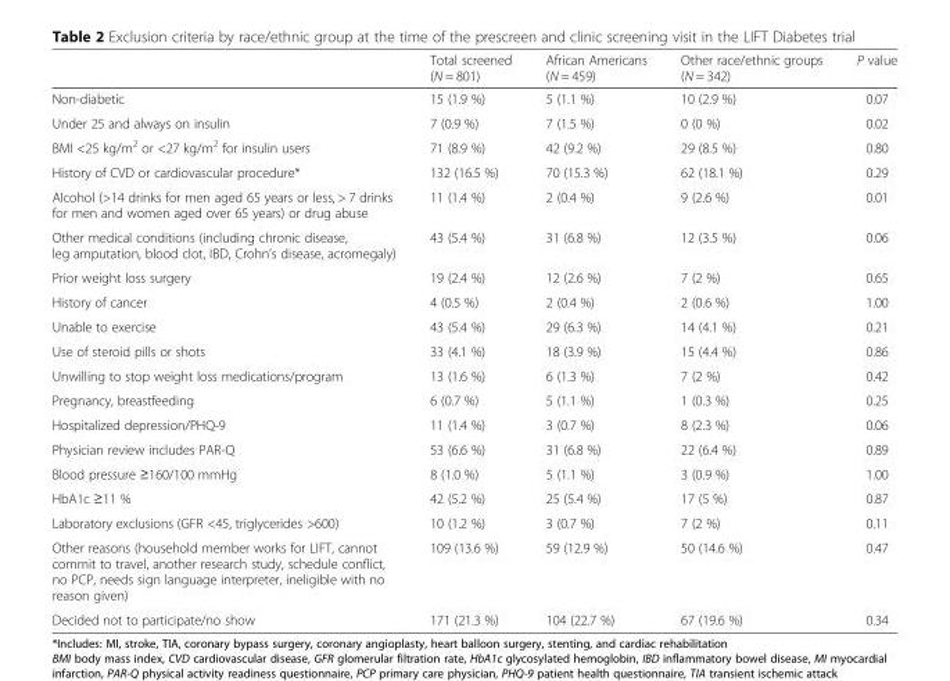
<table><thead><tr><td></td><td>Total screened (N = 801)</td><td>African Americans (N = 459)</td><td>Other race/ethnic groups (N = 342)</td><td>P value</td></tr></thead><tbody><tr><td>Non-diabetic</td><td>15 (1.9 %)</td><td>5 (1.1 %)</td><td>10 (2.9 %)</td><td>0.07</td></tr><tr><td>Under 25 and always on insulin</td><td>7 (0.9 %)</td><td>7 (1.5 %)</td><td>0 (0 %)</td><td>0.02</td></tr><tr><td>BMI &lt;25 kg/m<sup>2</sup> or &lt;27 kg/m<sup>2</sup> for insulin users</td><td>71 (8.9 %)</td><td>42 (9.2 %)</td><td>29 (8.5 %)</td><td>0.80</td></tr><tr><td>History of CVD or cardiovascular procedure*</td><td>132 (16.5 %)</td><td>70 (15.3 %)</td><td>62 (18.1 %)</td><td>0.29</td></tr><tr><td>Alcohol (&gt;14 drinks for men aged 65 years or less, &gt; 7 drinks for men and women aged over 65 years) or drug abuse</td><td>11 (1.4 %)</td><td>2 (0.4 %)</td><td>9 (2.6 %)</td><td>0.01</td></tr><tr><td>Other medical conditions (including chronic disease, leg amputation, blood clot, IBD, Crohn’s disease, acromegaly)</td><td>43 (5.4 %)</td><td>31 (6.8 %)</td><td>12 (3.5 %)</td><td>0.06</td></tr><tr><td>Prior weight loss surgery</td><td>19 (2.4 %)</td><td>12 (2.6 %)</td><td>7 (2 %)</td><td>0.65</td></tr><tr><td>History of cancer</td><td>4 (0.5 %)</td><td>2 (0.4 %)</td><td>2 (0.6 %)</td><td>1.00</td></tr><tr><td>Unable to exercise</td><td>43 (5.4 %)</td><td>29 (6.3 %)</td><td>14 (4.1 %)</td><td>0.21</td></tr><tr><td>Use of steroid pills or shots</td><td>33 (4.1 %)</td><td>18 (3.9 %)</td><td>15 (4.4 %)</td><td>0.86</td></tr><tr><td>Unwilling to stop weight loss medications/program</td><td>13 (1.6 %)</td><td>6 (1.3 %)</td><td>7 (2 %)</td><td>0.42</td></tr><tr><td>Pregnancy, breastfeeding</td><td>6 (0.7 %)</td><td>5 (1.1 %)</td><td>1 (0.3 %)</td><td>0.25</td></tr><tr><td>Hospitalized depression/PHQ-9</td><td>11 (1.4 %)</td><td>3 (0.7 %)</td><td>8 (2.3 %)</td><td>0.06</td></tr><tr><td>Physician review includes PAR-Q</td><td>53 (6.6 %)</td><td>31 (6.8 %)</td><td>22 (6.4 %)</td><td>0.89</td></tr><tr><td>Blood pressure ≥160/100 mmHg</td><td>8 (1.0 %)</td><td>5 (1.1 %)</td><td>3 (0.9 %)</td><td>1.00</td></tr><tr><td>HbA1c ≥11 %</td><td>42 (5.2 %)</td><td>25 (5.4 %)</td><td>17 (5 %)</td><td>0.87</td></tr><tr><td>Laboratory exclusions (GFR &lt;45, triglycerides &gt;600)</td><td>10 (1.2 %)</td><td>3 (0.7 %)</td><td>7 (2 %)</td><td>0.11</td></tr><tr><td>Other reasons (household member works for LIFT, cannot commit to travel, another research study, schedule conflict, no PCP, needs sign language interpreter, ineligible with no reason given)</td><td>109 (13.6 %)</td><td>59 (12.9 %)</td><td>50 (14.6 %)</td><td>0.47</td></tr><tr><td>Decided not to participate/no show</td><td>171 (21.3 %)</td><td>104 (22.7 %)</td><td>67 (19.6 %)</td><td>0.34</td></tr></tbody></table>